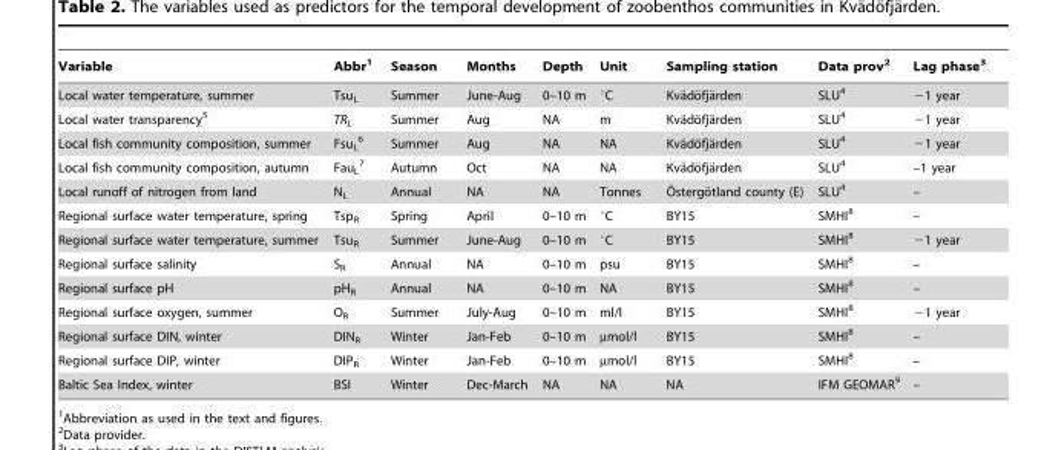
<table><thead><tr><td>Variable</td><td>Abbr<sup>1</sup></td><td>Season</td><td>Months</td><td>Depth</td><td>Unit</td><td>Sampling station</td><td>Data prov<sup>2</sup></td><td>Lag phase<sup>3</sup></td></tr></thead><tbody><tr><td>Local water temperature, summer</td><td>Tsu<sub>L</sub></td><td>Summer</td><td>June-Aug</td><td>0–10 m</td><td>°C</td><td>Kva¨do¨fja¨rden</td><td>SLU<sup>4</sup></td><td>−1 year</td></tr><tr><td>Local water transparency<sup>5</sup></td><td>TR<sub>L</sub></td><td>Summer</td><td>Aug</td><td>NA</td><td>m</td><td>Kva¨do¨fja¨rden</td><td>SLU<sup>4</sup></td><td>−1 year</td></tr><tr><td>Local fish community composition, summer</td><td>Fsu<sub>L</sub> 6</td><td>Summer</td><td>Aug</td><td>NA</td><td>NA</td><td>Kva¨do¨fja¨rden</td><td>SLU<sup>4</sup></td><td>−1 year</td></tr><tr><td>Local fish community composition, autumn</td><td>Fau<sub>L</sub> 7</td><td>Autumn</td><td>Oct</td><td>NA</td><td>NA</td><td>Kva¨do¨fja¨rden</td><td>SLU<sup>4</sup></td><td>–1 year</td></tr><tr><td>Local runoff of nitrogen from land</td><td>N<sub>L</sub></td><td>Annual</td><td>NA</td><td>NA</td><td>Tonnes</td><td>O¨ stergo¨tland county (E)</td><td>SLU<sup>4</sup></td><td>–</td></tr><tr><td>Regional surface water temperature, spring</td><td>Tsp<sub>R</sub></td><td>Spring</td><td>April</td><td>0–10 m</td><td>°C</td><td>BY15</td><td>SMHI<sup>8</sup></td><td>–</td></tr><tr><td>Regional surface water temperature, summer</td><td>Tsu<sub>R</sub></td><td>Summer</td><td>June-Aug</td><td>0–10 m</td><td>°C</td><td>BY15</td><td>SMHI<sup>8</sup></td><td>−1 year</td></tr><tr><td>Regional surface salinity</td><td>S<sub>R</sub></td><td>Annual</td><td>NA</td><td>0–10 m</td><td>psu</td><td>BY15</td><td>SMHI<sup>8</sup></td><td>–</td></tr><tr><td>Regional surface pH</td><td>pH<sub>R</sub></td><td>Annual</td><td>NA</td><td>0–10 m</td><td>NA</td><td>BY15</td><td>SMHI<sup>8</sup></td><td>–</td></tr><tr><td>Regional surface oxygen, summer</td><td>O<sub>R</sub></td><td>Summer</td><td>July-Aug</td><td>0–10 m</td><td>ml/l</td><td>BY15</td><td>SMHI<sup>8</sup></td><td>−1 year</td></tr><tr><td>Regional surface DIN, winter</td><td>DIN<sub>R</sub></td><td>Winter</td><td>Jan-Feb</td><td>0–10 m</td><td>µmol/l</td><td>BY15</td><td>SMHI<sup>8</sup></td><td>–</td></tr><tr><td>Regional surface DIP, winter</td><td>DIP<sub>R</sub></td><td>Winter</td><td>Jan-Feb</td><td>0–10 m</td><td>µmol/l</td><td>BY15</td><td>SMHI<sup>8</sup></td><td>–</td></tr><tr><td>Baltic Sea Index, winter</td><td>BSI</td><td>Winter</td><td>Dec-March</td><td>NA</td><td>NA</td><td>NA</td><td>IFM GEOMAR<sup>9</sup></td><td>–</td></tr></tbody></table>